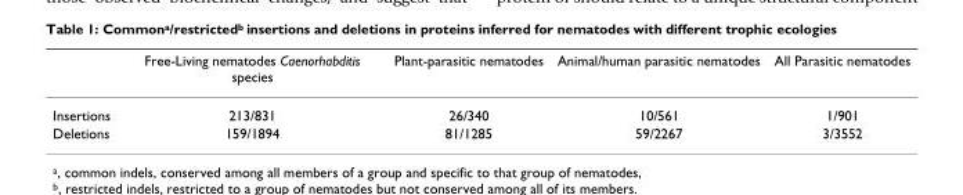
<table><thead><tr><td></td><td>Free-Living nematodes Caenorhabditis species</td><td>Plant-parasitic nematodes</td><td>Animal/human parasitic nematodes</td><td>All Parasitic nematodes</td></tr></thead><tbody><tr><td>Insertions</td><td>213/831</td><td>26/340</td><td>10/561</td><td>1/901</td></tr><tr><td>Deletions</td><td>159/1894</td><td>81/1285</td><td>59/2267</td><td>3/3552</td></tr></tbody></table>